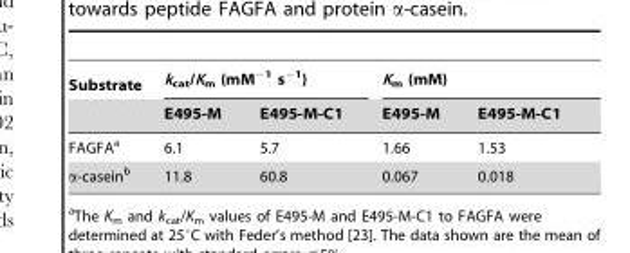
<table><thead><tr><td rowspan="2">Substrate</td><td colspan="2">k<sub>cat</sub>/K<sub>m</sub> (mM<sup>−1</sup> s<sup>−1</sup>)</td><td colspan="2">K<sub>m</sub> (mM)</td></tr><tr><td>E495-M</td><td>E495-M-C1</td><td>E495-M</td><td>E495-M-C1</td></tr></thead><tbody><tr><td>FAGFA<sup>a</sup></td><td>6.1</td><td>5.7</td><td>1.66</td><td>1.53</td></tr><tr><td>α-casein<sup>b</sup></td><td>11.8</td><td>60.8</td><td>0.067</td><td>0.018</td></tr></tbody></table>